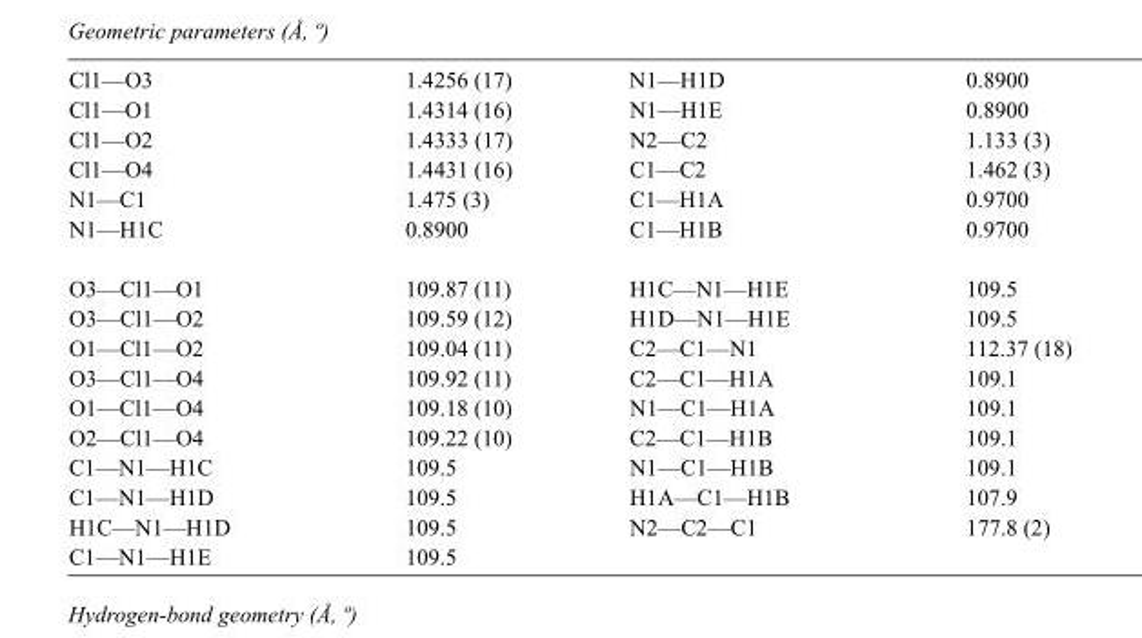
<table><tbody><tr><td>Cl1—O3</td><td>1.4256 (17)</td><td>N1—H1D</td><td>0.8900</td></tr><tr><td>Cl1—O1</td><td>1.4314 (16)</td><td>N1—H1E</td><td>0.8900</td></tr><tr><td>Cl1—O2</td><td>1.4333 (17)</td><td>N2—C2</td><td>1.133 (3)</td></tr><tr><td>Cl1—O4</td><td>1.4431 (16)</td><td>C1—C2</td><td>1.462 (3)</td></tr><tr><td>N1—C1</td><td>1.475 (3)</td><td>C1—H1A</td><td>0.9700</td></tr><tr><td>N1—H1C</td><td>0.8900</td><td>C1—H1B</td><td>0.9700</td></tr><tr><td>O3—Cl1—O1</td><td>109.87 (11)</td><td>H1C—N1—H1E</td><td>109.5</td></tr><tr><td>O3—Cl1—O2</td><td>109.59 (12)</td><td>H1D—N1—H1E</td><td>109.5</td></tr><tr><td>O1—Cl1—O2</td><td>109.04 (11)</td><td>C2—C1—N1</td><td>112.37 (18)</td></tr><tr><td>O3—Cl1—O4</td><td>109.92 (11)</td><td>C2—C1—H1A</td><td>109.1</td></tr><tr><td>O1—Cl1—O4</td><td>109.18 (10)</td><td>N1—C1—H1A</td><td>109.1</td></tr><tr><td>O2—Cl1—O4</td><td>109.22 (10)</td><td>C2—C1—H1B</td><td>109.1</td></tr><tr><td>C1—N1—H1C</td><td>109.5</td><td>N1—C1—H1B</td><td>109.1</td></tr><tr><td>C1—N1—H1D</td><td>109.5</td><td>H1A—C1—H1B</td><td>107.9</td></tr><tr><td>H1C—N1—H1D</td><td>109.5</td><td>N2—C2—C1</td><td>177.8 (2)</td></tr><tr><td>C1—N1—H1E</td><td>109.5</td><td></td><td></td></tr></tbody></table>